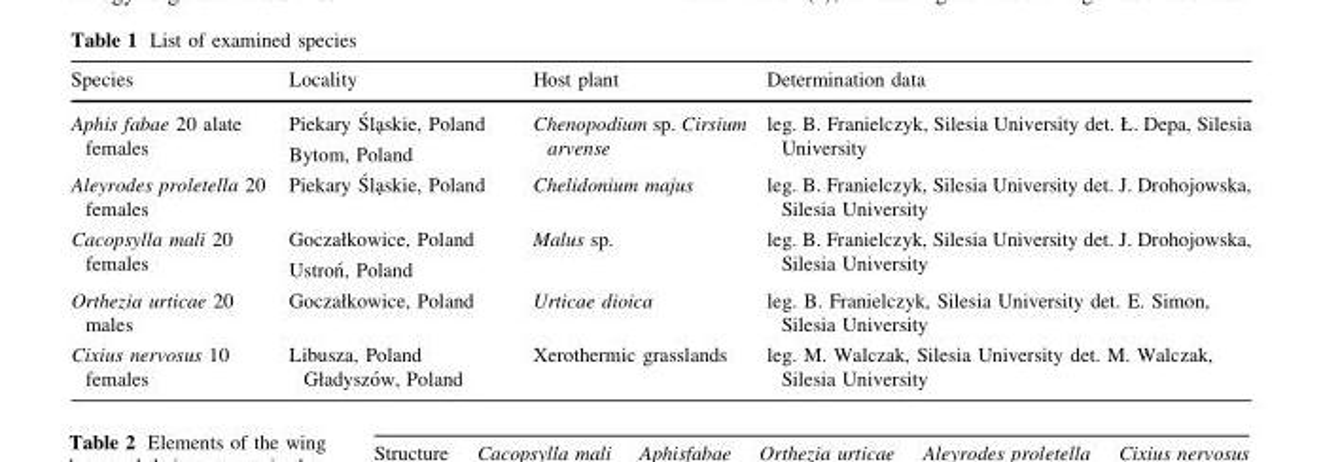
<table><thead><tr><td>Species</td><td>Locality</td><td>Host plant</td><td>Determination data</td></tr></thead><tbody><tr><td>Aphis fabae 20 alate females</td><td>Piekary S´la˛skie, Poland Bytom, Poland</td><td>Chenopodium sp. Cirsium arvense</td><td>leg. B. Franielczyk, Silesia University det. Ł. Depa, Silesia University</td></tr><tr><td>Aleyrodes proletella 20 females</td><td>Piekary S´la˛skie, Poland</td><td>Chelidonium majus</td><td>leg. B. Franielczyk, Silesia University det. J. Drohojowska, Silesia University</td></tr><tr><td>Cacopsylla mali 20 females</td><td>Goczałkowice, Poland Ustron´, Poland</td><td>Malus sp.</td><td>leg. B. Franielczyk, Silesia University det. J. Drohojowska, Silesia University</td></tr><tr><td>Orthezia urticae 20 males</td><td>Goczałkowice, Poland</td><td>Urticae dioica</td><td>leg. B. Franielczyk, Silesia University det. E. Simon, Silesia University</td></tr><tr><td>Cixius nervosus 10 females</td><td>Libusza, Poland Gładyszo´w, Poland</td><td>Xerothermic grasslands</td><td>leg. M. Walczak, Silesia University det. M. Walczak, Silesia University</td></tr></tbody></table>